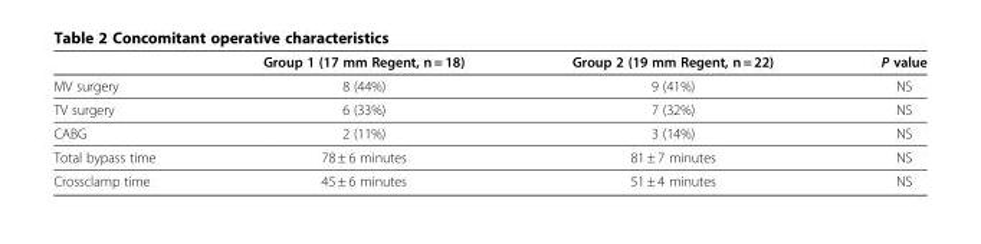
<table><thead><tr><td></td><td>Group 1 (17 mm Regent, n = 18)</td><td>Group 2 (19 mm Regent, n = 22)</td><td>P value</td></tr></thead><tbody><tr><td>MV surgery</td><td>8 (44%)</td><td>9 (41%)</td><td>NS</td></tr><tr><td>TV surgery</td><td>6 (33%)</td><td>7 (32%)</td><td>NS</td></tr><tr><td>CABG</td><td>2 (11%)</td><td>3 (14%)</td><td>NS</td></tr><tr><td>Total bypass time</td><td>78 ± 6 minutes</td><td>81 ± 7 minutes</td><td>NS</td></tr><tr><td>Crossclamp time</td><td>45 ± 6 minutes</td><td>51 ± 4 minutes</td><td>NS</td></tr></tbody></table>